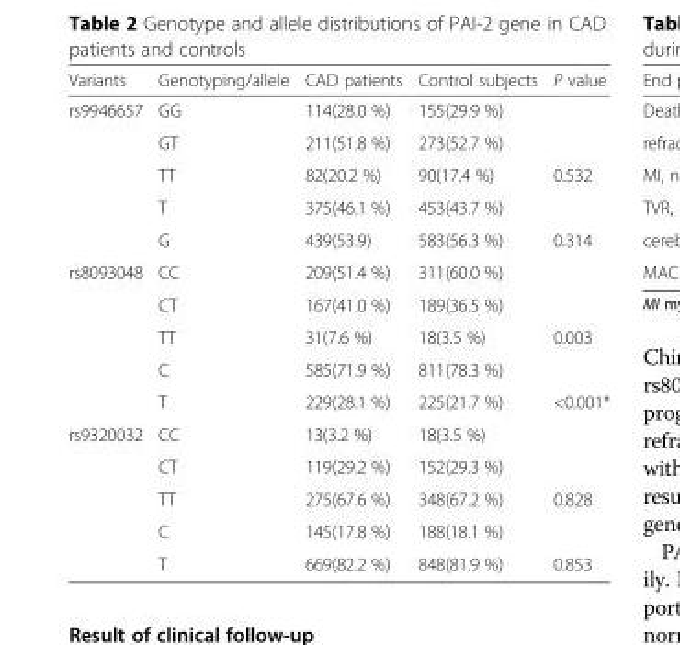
<table><thead><tr><td>Variants</td><td>Genotyping/allele</td><td>CAD patients</td><td>Control subjects</td><td>P value</td></tr></thead><tbody><tr><td rowspan="5">rs9946657</td><td>GG</td><td>114(28.0 %)</td><td>155(29.9 %)</td><td></td></tr><tr><td>GT</td><td>211(51.8 %)</td><td>273(52.7 %)</td><td></td></tr><tr><td>TT</td><td>82(20.2 %)</td><td>90(17.4 %)</td><td>0.532</td></tr><tr><td>T</td><td>375(46.1 %)</td><td>453(43.7 %)</td><td></td></tr><tr><td>G</td><td>439(53.9)</td><td>583(56.3 %)</td><td>0.314</td></tr><tr><td rowspan="5">rs8093048</td><td>CC</td><td>209(51.4 %)</td><td>311(60.0 %)</td><td></td></tr><tr><td>CT</td><td>167(41.0 %)</td><td>189(36.5 %)</td><td></td></tr><tr><td>TT</td><td>31(7.6 %)</td><td>18(3.5 %)</td><td>0.003</td></tr><tr><td>C</td><td>585(71.9 %)</td><td>811(78.3 %)</td><td></td></tr><tr><td>T</td><td>229(28.1 %)</td><td>225(21.7 %)</td><td>&lt;0.001*</td></tr><tr><td rowspan="5">rs9320032</td><td>CC</td><td>13(3.2 %)</td><td>18(3.5 %)</td><td></td></tr><tr><td>CT</td><td>119(29.2 %)</td><td>152(29.3 %)</td><td></td></tr><tr><td>TT</td><td>275(67.6 %)</td><td>348(67.2 %)</td><td>0.828</td></tr><tr><td>C</td><td>145(17.8 %)</td><td>188(18.1 %)</td><td></td></tr><tr><td>T</td><td>669(82.2 %)</td><td>848(81.9 %)</td><td>0.853</td></tr></tbody></table>